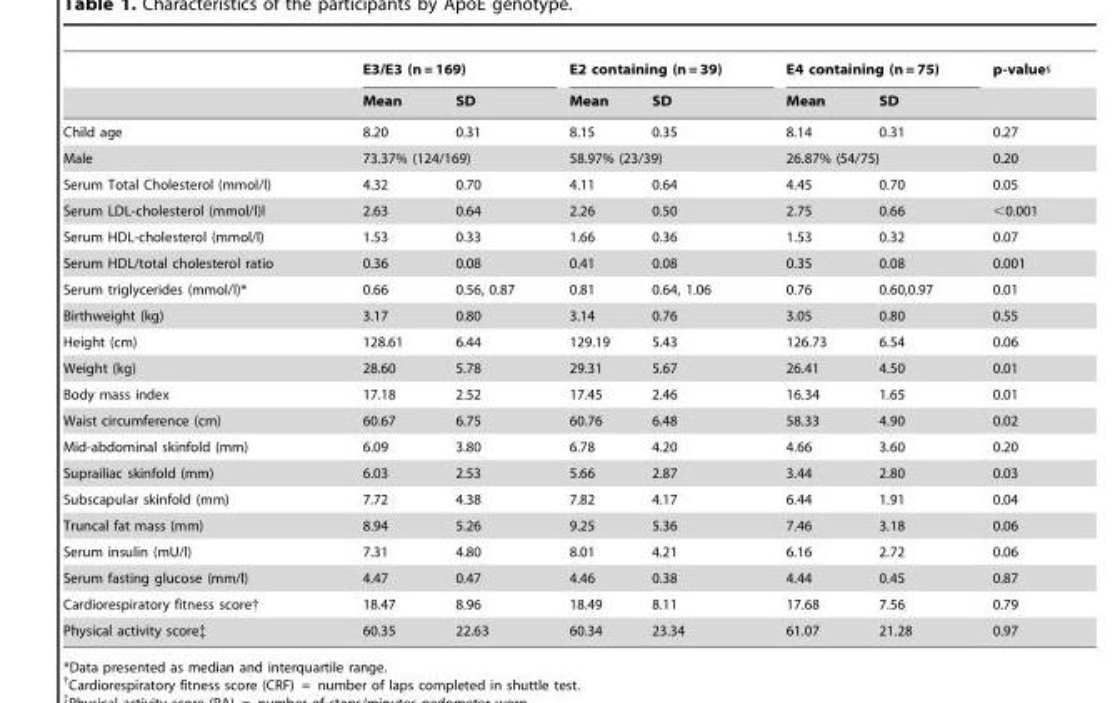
<table><thead><tr><td rowspan="2"></td><td colspan="2">E3/E3 (n = 169)</td><td colspan="2">E2 containing (n = 39)</td><td colspan="2">E4 containing (n = 75)</td><td rowspan="2">p-value§</td></tr><tr><td>Mean</td><td>SD</td><td>Mean</td><td>SD</td><td>Mean</td><td>SD</td></tr></thead><tbody><tr><td>Child age</td><td>8.20</td><td>0.31</td><td>8.15</td><td>0.35</td><td>8.14</td><td>0.31</td><td>0.27</td></tr><tr><td>Male</td><td colspan="2">73.37% (124/169)</td><td colspan="2">58.97% (23/39)</td><td colspan="2">26.87% (54/75)</td><td>0.20</td></tr><tr><td>Serum Total Cholesterol (mmol/l)</td><td>4.32</td><td>0.70</td><td>4.11</td><td>0.64</td><td>4.45</td><td>0.70</td><td>0.05</td></tr><tr><td>Serum LDL-cholesterol (mmol/l)l</td><td>2.63</td><td>0.64</td><td>2.26</td><td>0.50</td><td>2.75</td><td>0.66</td><td>&lt;0.001</td></tr><tr><td>Serum HDL-cholesterol (mmol/l)</td><td>1.53</td><td>0.33</td><td>1.66</td><td>0.36</td><td>1.53</td><td>0.32</td><td>0.07</td></tr><tr><td>Serum HDL/total cholesterol ratio</td><td>0.36</td><td>0.08</td><td>0.41</td><td>0.08</td><td>0.35</td><td>0.08</td><td>0.001</td></tr><tr><td>Serum triglycerides (mmol/l)*</td><td>0.66</td><td>0.56, 0.87</td><td>0.81</td><td>0.64, 1.06</td><td>0.76</td><td>0.60,0.97</td><td>0.01</td></tr><tr><td>Birthweight (kg)</td><td>3.17</td><td>0.80</td><td>3.14</td><td>0.76</td><td>3.05</td><td>0.80</td><td>0.55</td></tr><tr><td>Height (cm)</td><td>128.61</td><td>6.44</td><td>129.19</td><td>5.43</td><td>126.73</td><td>6.54</td><td>0.06</td></tr><tr><td>Weight (kg)</td><td>28.60</td><td>5.78</td><td>29.31</td><td>5.67</td><td>26.41</td><td>4.50</td><td>0.01</td></tr><tr><td>Body mass index</td><td>17.18</td><td>2.52</td><td>17.45</td><td>2.46</td><td>16.34</td><td>1.65</td><td>0.01</td></tr><tr><td>Waist circumference (cm)</td><td>60.67</td><td>6.75</td><td>60.76</td><td>6.48</td><td>58.33</td><td>4.90</td><td>0.02</td></tr><tr><td>Mid-abdominal skinfold (mm)</td><td>6.09</td><td>3.80</td><td>6.78</td><td>4.20</td><td>4.66</td><td>3.60</td><td>0.20</td></tr><tr><td>Suprailiac skinfold (mm)</td><td>6.03</td><td>2.53</td><td>5.66</td><td>2.87</td><td>3.44</td><td>2.80</td><td>0.03</td></tr><tr><td>Subscapular skinfold (mm)</td><td>7.72</td><td>4.38</td><td>7.82</td><td>4.17</td><td>6.44</td><td>1.91</td><td>0.04</td></tr><tr><td>Truncal fat mass (mm)</td><td>8.94</td><td>5.26</td><td>9.25</td><td>5.36</td><td>7.46</td><td>3.18</td><td>0.06</td></tr><tr><td>Serum insulin (mU/l)</td><td>7.31</td><td>4.80</td><td>8.01</td><td>4.21</td><td>6.16</td><td>2.72</td><td>0.06</td></tr><tr><td>Serum fasting glucose (mm/l)</td><td>4.47</td><td>0.47</td><td>4.46</td><td>0.38</td><td>4.44</td><td>0.45</td><td>0.87</td></tr><tr><td>Cardiorespiratory fitness score†</td><td>18.47</td><td>8.96</td><td>18.49</td><td>8.11</td><td>17.68</td><td>7.56</td><td>0.79</td></tr><tr><td>Physical activity score‡</td><td>60.35</td><td>22.63</td><td>60.34</td><td>23.34</td><td>61.07</td><td>21.28</td><td>0.97</td></tr></tbody></table>